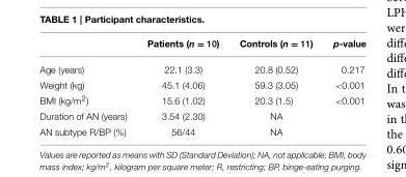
<table><thead><tr><td></td><td>Patients (n = 10)</td><td>Controls (n = 11)</td><td>p-value</td></tr></thead><tbody><tr><td>Age (years)</td><td>22.1 (3.3)</td><td>20.8 (0.52)</td><td>0.217</td></tr><tr><td>Weight (kg)</td><td>45.1 (4.06)</td><td>59.3 (3.05)</td><td>&lt;0.001</td></tr><tr><td>BMI (kg/m<sup>2</sup>)</td><td>15.6 (1.02)</td><td>20.3 (1.5)</td><td>&lt;0.001</td></tr><tr><td>Duration of AN (years)</td><td>3.54 (2.30)</td><td>NA</td><td></td></tr><tr><td>AN subtype R/BP (%)</td><td>56/44</td><td>NA</td><td></td></tr></tbody></table>